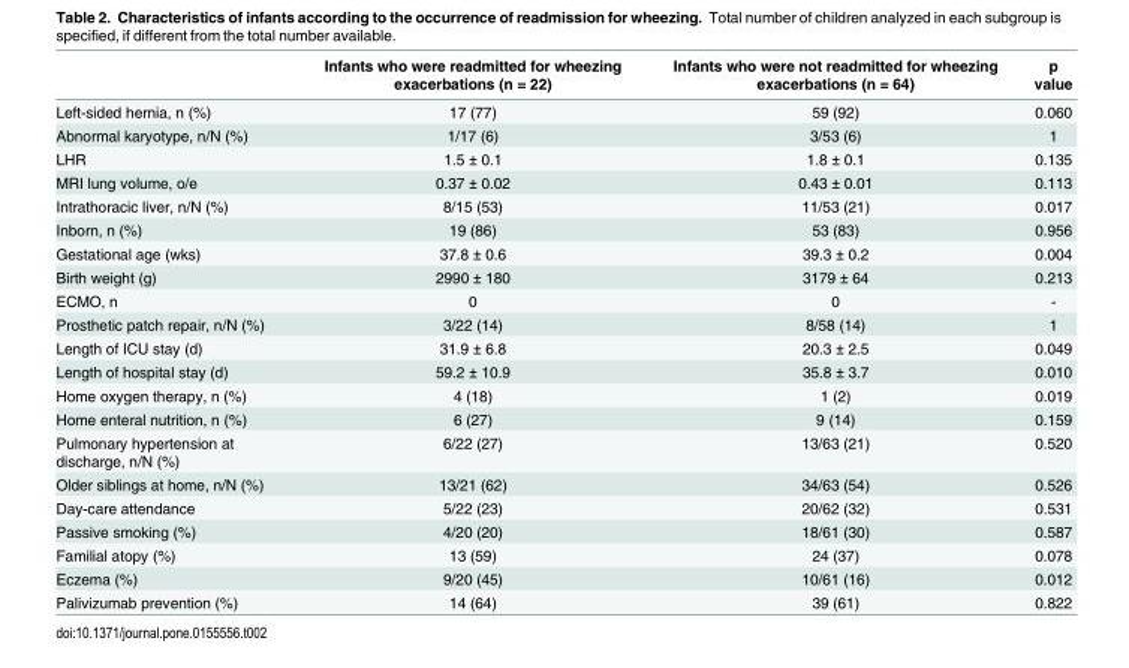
<table><thead><tr><td></td><td>Infants who were readmitted for wheezing exacerbations (n = 22)</td><td>Infants who were not readmitted for wheezing exacerbations (n = 64)</td><td>p value</td></tr></thead><tbody><tr><td>Left-sided hernia, n (%)</td><td>17 (77)</td><td>59 (92)</td><td>0.060</td></tr><tr><td>Abnormal karyotype, n/N (%)</td><td>1/17 (6)</td><td>3/53 (6)</td><td>1</td></tr><tr><td>LHR</td><td>1.5 ± 0.1</td><td>1.8 ± 0.1</td><td>0.135</td></tr><tr><td>MRI lung volume, o/e</td><td>0.37 ± 0.02</td><td>0.43 ± 0.01</td><td>0.113</td></tr><tr><td>Intrathoracic liver, n/N (%)</td><td>8/15 (53)</td><td>11/53 (21)</td><td>0.017</td></tr><tr><td>Inborn, n (%)</td><td>19 (86)</td><td>53 (83)</td><td>0.956</td></tr><tr><td>Gestational age (wks)</td><td>37.8 ± 0.6</td><td>39.3 ± 0.2</td><td>0.004</td></tr><tr><td>Birth weight (g)</td><td>2990 ± 180</td><td>3179 ± 64</td><td>0.213</td></tr><tr><td>ECMO, n</td><td>0</td><td>0</td><td>-</td></tr><tr><td>Prosthetic patch repair, n/N (%)</td><td>3/22 (14)</td><td>8/58 (14)</td><td>1</td></tr><tr><td>Length of ICU stay (d)</td><td>31.9 ± 6.8</td><td>20.3 ± 2.5</td><td>0.049</td></tr><tr><td>Length of hospital stay (d)</td><td>59.2 ± 10.9</td><td>35.8 ± 3.7</td><td>0.010</td></tr><tr><td>Home oxygen therapy, n (%)</td><td>4 (18)</td><td>1 (2)</td><td>0.019</td></tr><tr><td>Home enteral nutrition, n (%)</td><td>6 (27)</td><td>9 (14)</td><td>0.159</td></tr><tr><td>Pulmonary hypertension at discharge, n/N (%)</td><td>6/22 (27)</td><td>13/63 (21)</td><td>0.520</td></tr><tr><td>Older siblings at home, n/N (%)</td><td>13/21 (62)</td><td>34/63 (54)</td><td>0.526</td></tr><tr><td>Day-care attendance</td><td>5/22 (23)</td><td>20/62 (32)</td><td>0.531</td></tr><tr><td>Passive smoking (%)</td><td>4/20 (20)</td><td>18/61 (30)</td><td>0.587</td></tr><tr><td>Familial atopy (%)</td><td>13 (59)</td><td>24 (37)</td><td>0.078</td></tr><tr><td>Eczema (%)</td><td>9/20 (45)</td><td>10/61 (16)</td><td>0.012</td></tr><tr><td>Palivizumab prevention (%)</td><td>14 (64)</td><td>39 (61)</td><td>0.822</td></tr></tbody></table>